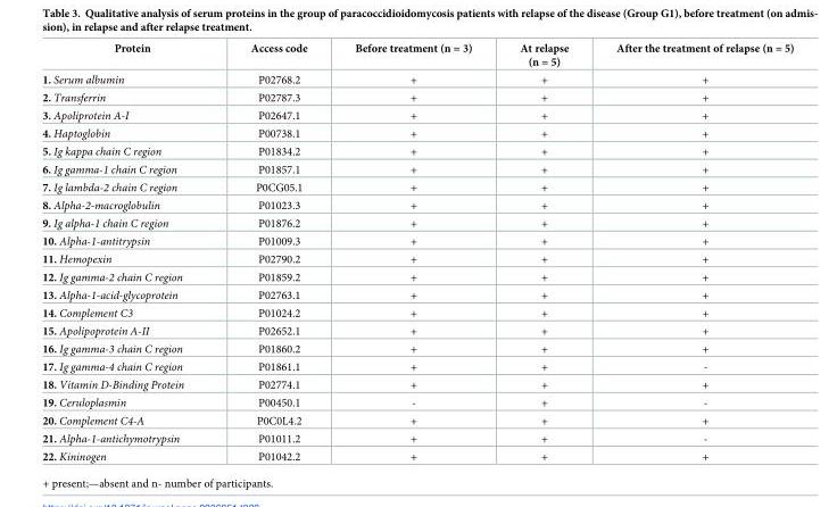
<table><thead><tr><td>Protein</td><td>Access code</td><td>Before treatment (n = 3)</td><td>At relapse (n = 5)</td><td>After the treatment of relapse (n = 5)</td></tr></thead><tbody><tr><td>1. Serum albumin</td><td>P02768.2</td><td>+</td><td>+</td><td>+</td></tr><tr><td>2. Transferrin</td><td>P02787.3</td><td>+</td><td>+</td><td>+</td></tr><tr><td>3. Apoliprotein A-I</td><td>P02647.1</td><td>+</td><td>+</td><td>+</td></tr><tr><td>4. Haptoglobin</td><td>P00738.1</td><td>+</td><td>+</td><td>+</td></tr><tr><td>5. Ig kappa chain C region</td><td>P01834.2</td><td>+</td><td>+</td><td>+</td></tr><tr><td>6. Ig gamma-1 chain C region</td><td>P01857.1</td><td>+</td><td>+</td><td>+</td></tr><tr><td>7. Ig lambda-2 chain C region</td><td>P0CG05.1</td><td>+</td><td>+</td><td>+</td></tr><tr><td>8. Alpha-2-macroglobulin</td><td>P01023.3</td><td>+</td><td>+</td><td>+</td></tr><tr><td>9. Ig alpha-1 chain C region</td><td>P01876.2</td><td>+</td><td>+</td><td>+</td></tr><tr><td>10. Alpha-1-antitrypsin</td><td>P01009.3</td><td>+</td><td>+</td><td>+</td></tr><tr><td>11. Hemopexin</td><td>P02790.2</td><td>+</td><td>+</td><td>+</td></tr><tr><td>12. Ig gamma-2 chain C region</td><td>P01859.2</td><td>+</td><td>+</td><td>+</td></tr><tr><td>13. Alpha-1-acid-glycoprotein</td><td>P02763.1</td><td>+</td><td>+</td><td>+</td></tr><tr><td>14. Complement C3</td><td>P01024.2</td><td>+</td><td>+</td><td>+</td></tr><tr><td>15. Apolipoprotein A-II</td><td>P02652.1</td><td>+</td><td>+</td><td>+</td></tr><tr><td>16. Ig gamma-3 chain C region</td><td>P01860.2</td><td>+</td><td>+</td><td>+</td></tr><tr><td>17. Ig gamma-4 chain C region</td><td>P01861.1</td><td>+</td><td>+</td><td>-</td></tr><tr><td>18. Vitamin D-Binding Protein</td><td>P02774.1</td><td>+</td><td>+</td><td>+</td></tr><tr><td>19. Ceruloplasmin</td><td>P00450.1</td><td>-</td><td>+</td><td>-</td></tr><tr><td>20. Complement C4-A</td><td>P0C0L4.2</td><td>+</td><td>+</td><td>+</td></tr><tr><td>21. Alpha-1-antichymotrypsin</td><td>P01011.2</td><td>+</td><td>+</td><td>-</td></tr><tr><td>22. Kininogen</td><td>P01042.2</td><td>+</td><td>+</td><td>+</td></tr></tbody></table>